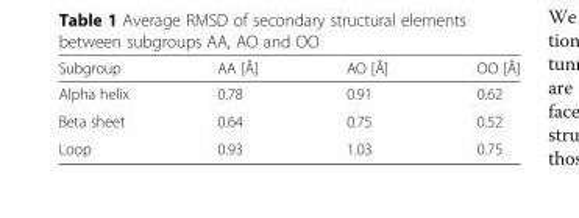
<table><thead><tr><td>Subgroup</td><td>AA [Å]</td><td>AO [Å]</td><td>OO [Å]</td></tr></thead><tbody><tr><td>Alpha helix</td><td>0.78</td><td>0.91</td><td>0.62</td></tr><tr><td>Beta sheet</td><td>0.64</td><td>0.75</td><td>0.52</td></tr><tr><td>Loop</td><td>0.93</td><td>1.03</td><td>0.75</td></tr></tbody></table>